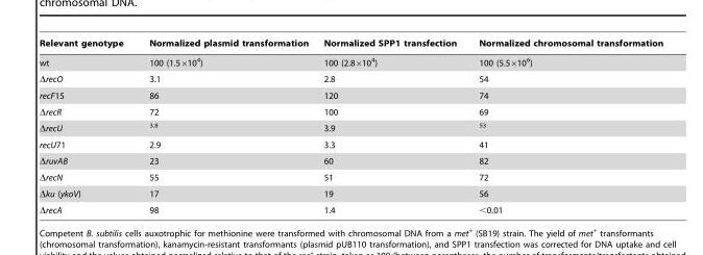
<table><thead><tr><td>Relevant genotype</td><td>Normalized plasmid transformation</td><td>Normalized SPP1 transfection</td><td>Normalized chromosomal transformation</td></tr></thead><tbody><tr><td>wt</td><td>100 (1.5×10<sup>4</sup>)</td><td>100 (2.8×10<sup>4</sup>)</td><td>100 (5.5×10<sup>6</sup>)</td></tr><tr><td>ΔrecO</td><td>3.1</td><td>2.8</td><td>54</td></tr><tr><td>recF15</td><td>86</td><td>120</td><td>74</td></tr><tr><td>ΔrecR</td><td>72</td><td>100</td><td>69</td></tr><tr><td>ΔrecU</td><td><sup>3.8</sup></td><td>3.9</td><td><sup>53</sup></td></tr><tr><td>recU71</td><td>2.9</td><td>3.3</td><td>41</td></tr><tr><td>ΔruvAB</td><td>23</td><td>60</td><td>82</td></tr><tr><td>ΔrecN</td><td>55</td><td>51</td><td>72</td></tr><tr><td>Δku (ykoV)</td><td>17</td><td>19</td><td>56</td></tr><tr><td>ΔrecA</td><td>98</td><td>1.4</td><td>&lt;0.01</td></tr></tbody></table>